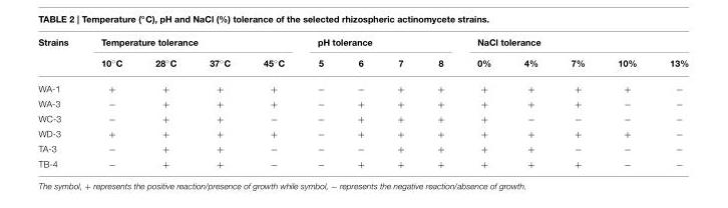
<table><thead><tr><td rowspan="2">Strains</td><td colspan="4">Temperature tolerance</td><td colspan="4">pH tolerance</td><td colspan="5">NaCl tolerance</td></tr><tr><td>10◦C</td><td>28◦C</td><td>37◦C</td><td>45◦C</td><td>5</td><td>6</td><td>7</td><td>8</td><td>0%</td><td>4%</td><td>7%</td><td>10%</td><td>13%</td></tr></thead><tbody><tr><td>WA-1</td><td>+</td><td>+</td><td>+</td><td>+</td><td>−</td><td>−</td><td>+</td><td>+</td><td>+</td><td>+</td><td>+</td><td>+</td><td>−</td></tr><tr><td>WA-3</td><td>−</td><td>+</td><td>+</td><td>+</td><td>−</td><td>+</td><td>+</td><td>+</td><td>+</td><td>+</td><td>+</td><td>−</td><td>−</td></tr><tr><td>WC-3</td><td>−</td><td>+</td><td>+</td><td>−</td><td>−</td><td>+</td><td>+</td><td>+</td><td>+</td><td>−</td><td>−</td><td>−</td><td>−</td></tr><tr><td>WD-3</td><td>+</td><td>+</td><td>+</td><td>+</td><td>−</td><td>+</td><td>+</td><td>+</td><td>+</td><td>+</td><td>+</td><td>+</td><td>−</td></tr><tr><td>TA-3</td><td>−</td><td>+</td><td>+</td><td>−</td><td>−</td><td>−</td><td>+</td><td>+</td><td>+</td><td>+</td><td>−</td><td>−</td><td>−</td></tr><tr><td>TB-4</td><td>−</td><td>+</td><td>+</td><td>−</td><td>−</td><td>+</td><td>+</td><td>+</td><td>+</td><td>+</td><td>+</td><td>−</td><td>−</td></tr></tbody></table>